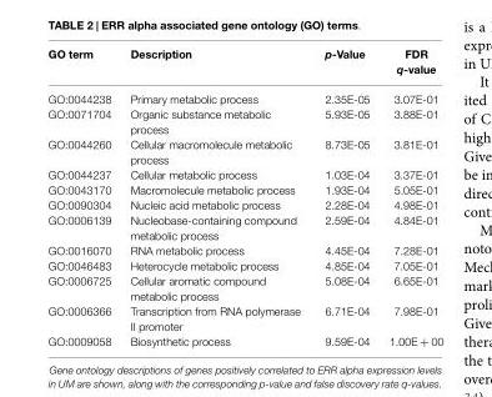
<table><thead><tr><td>GO term</td><td>Description</td><td>p-Value</td><td>FDR q-value</td></tr></thead><tbody><tr><td>GO:0044238</td><td>Primary metabolic process</td><td>2.35E-05</td><td>3.07E-01</td></tr><tr><td>GO:0071704</td><td>Organic substance metabolic process</td><td>5.93E-05</td><td>3.88E-01</td></tr><tr><td>GO:0044260</td><td>Cellular macromolecule metabolic process</td><td>8.73E-05</td><td>3.81E-01</td></tr><tr><td>GO:0044237</td><td>Cellular metabolic process</td><td>1.03E-04</td><td>3.37E-01</td></tr><tr><td>GO:0043170</td><td>Macromolecule metabolic process</td><td>1.93E-04</td><td>5.05E-01</td></tr><tr><td>GO:0090304</td><td>Nucleic acid metabolic process</td><td>2.28E-04</td><td>4.98E-01</td></tr><tr><td>GO:0006139</td><td>Nucleobase-containing compound metabolic process</td><td>2.59E-04</td><td>4.84E-01</td></tr><tr><td>GO:0016070</td><td>RNA metabolic process</td><td>4.45E-04</td><td>7.28E-01</td></tr><tr><td>GO:0046483</td><td>Heterocycle metabolic process</td><td>4.85E-04</td><td>7.05E-01</td></tr><tr><td>GO:0006725</td><td>Cellular aromatic compound metabolic process</td><td>5.08E-04</td><td>6.65E-01</td></tr><tr><td>GO:0006366</td><td>Transcription from RNA polymerase II promoter</td><td>6.71E-04</td><td>7.98E-01</td></tr><tr><td>GO:0009058</td><td>Biosynthetic process</td><td>9.59E-04</td><td>1.00E + 00</td></tr></tbody></table>